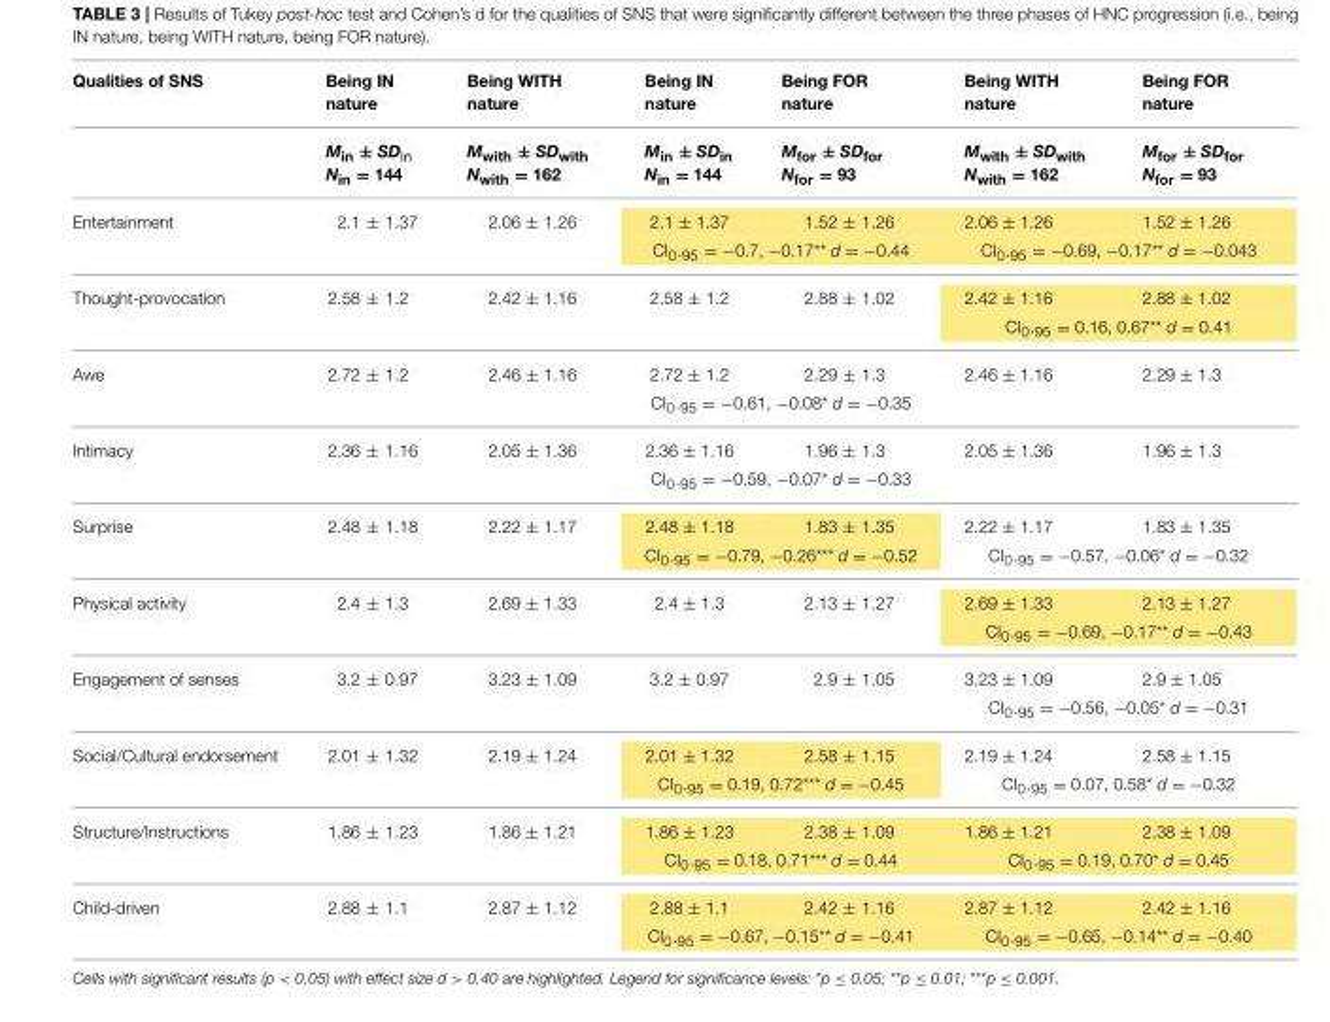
<table><thead><tr><td>Qualities of SNS</td><td>Being IN nature</td><td>Being WITH nature</td><td>Being IN nature</td><td>Being FOR nature</td><td>Being WITH nature</td><td>Being FOR nature</td></tr></thead><tbody><tr><td></td><td>Min ± SDin Nin = 144</td><td>Mwith ± SDwith Nwith = 162</td><td>Min ± SDin Nin = 144</td><td>Mfor ± SDfor Nfor = 93</td><td>Mwith ± SDwith Nwith = 162</td><td>Mfor ± SDfor Nfor = 93</td></tr><tr><td rowspan="2">Entertainment</td><td>2.1 ± 1.37</td><td>2.06 ± 1.26</td><td>2.1 ± 1.37</td><td>1.52 ± 1.26</td><td>2.06 ± 1.26</td><td>1.52 ± 1.26</td></tr><tr><td></td><td></td><td colspan="2">CI<sub>0</sub>.<sub>95</sub> = −0.7, −0.17** d = −0.44</td><td colspan="2">CI<sub>0</sub>.<sub>95</sub> = −0.69, −0.17** d = −0.043</td></tr><tr><td rowspan="2">Thought-provocation</td><td>2.58 ± 1.2</td><td>2.42 ± 1.16</td><td>2.58 ± 1.2</td><td>2.88 ± 1.02</td><td>2.42 ± 1.16</td><td>2.88 ± 1.02</td></tr><tr><td></td><td></td><td></td><td></td><td colspan="2">CI<sub>0</sub>.<sub>95</sub> = 0.16, 0.67** d = 0.41</td></tr><tr><td rowspan="2">Awe</td><td>2.72 ± 1.2</td><td>2.46 ± 1.16</td><td>2.72 ± 1.2</td><td>2.29 ± 1.3</td><td>2.46 ± 1.16</td><td>2.29 ± 1.3</td></tr><tr><td></td><td></td><td colspan="2">CI<sub>0</sub>.<sub>95</sub> = −0.61, −0.08* d = −0.35</td><td></td><td></td></tr><tr><td rowspan="2">Intimacy</td><td>2.36 ± 1.16</td><td>2.05 ± 1.36</td><td>2.36 ± 1.16</td><td>1.96 ± 1.3</td><td>2.05 ± 1.36</td><td>1.96 ± 1.3</td></tr><tr><td></td><td></td><td colspan="2">CI<sub>0</sub>.<sub>95</sub> = −0.59, −0.07* d = −0.33</td><td></td><td></td></tr><tr><td rowspan="2">Surprise</td><td>2.48 ± 1.18</td><td>2.22 ± 1.17</td><td>2.48 ± 1.18</td><td>1.83 ± 1.35</td><td>2.22 ± 1.17</td><td>1.83 ± 1.35</td></tr><tr><td></td><td></td><td colspan="2">CI<sub>0</sub>.<sub>95</sub> = −0.79, −0.26*** d = −0.52</td><td colspan="2">CI<sub>0</sub>.<sub>95</sub> = −0.57, −0.06* d = −0.32</td></tr><tr><td rowspan="2">Physical activity</td><td>2.4 ± 1.3</td><td>2.69 ± 1.33</td><td>2.4 ± 1.3</td><td>2.13 ± 1.27</td><td>2.69 ± 1.33</td><td>2.13 ± 1.27</td></tr><tr><td></td><td></td><td></td><td></td><td colspan="2">CI<sub>0</sub>.<sub>95</sub> = −0.69, −0.17** d = −0.43</td></tr><tr><td rowspan="2">Engagement of senses</td><td>3.2 ± 0.97</td><td>3.23 ± 1.09</td><td>3.2 ± 0.97</td><td>2.9 ± 1.05</td><td>3.23 ± 1.09</td><td>2.9 ± 1.05</td></tr><tr><td></td><td></td><td></td><td></td><td colspan="2">CI<sub>0</sub>.<sub>95</sub> = −0.56, −0.05* d = −0.31</td></tr><tr><td rowspan="2">Social/Cultural endorsement</td><td>2.01 ± 1.32</td><td>2.19 ± 1.24</td><td>2.01 ± 1.32</td><td>2.58 ± 1.15</td><td>2.19 ± 1.24</td><td>2.58 ± 1.15</td></tr><tr><td></td><td></td><td colspan="2">CI<sub>0</sub>.<sub>95</sub> = 0.19, 0.72*** d = −0.45</td><td colspan="2">CI<sub>0</sub>.<sub>95</sub> = 0.07, 0.58* d = −0.32</td></tr><tr><td rowspan="2">Structure/Instructions</td><td>1.86 ± 1.23</td><td>1.86 ± 1.21</td><td>1.86 ± 1.23</td><td>2.38 ± 1.09</td><td>1.86 ± 1.21</td><td>2.38 ± 1.09</td></tr><tr><td></td><td></td><td colspan="2">CI<sub>0</sub>.<sub>95</sub> = 0.18, 0.71*** d = 0.44</td><td colspan="2">CI<sub>0</sub>.<sub>95</sub> = 0.19, 0.70* d = 0.45</td></tr><tr><td rowspan="2">Child-driven</td><td>2.88 ± 1.1</td><td>2.87 ± 1.12</td><td>2.88 ± 1.1</td><td>2.42 ± 1.16</td><td>2.87 ± 1.12</td><td>2.42 ± 1.16</td></tr><tr><td></td><td></td><td colspan="2">CI<sub>0</sub>.<sub>95</sub> = −0.67, −0.15** d = −0.41</td><td colspan="2">CI<sub>0</sub>.<sub>95</sub> = −0.65, −0.14** d = −0.40</td></tr></tbody></table>